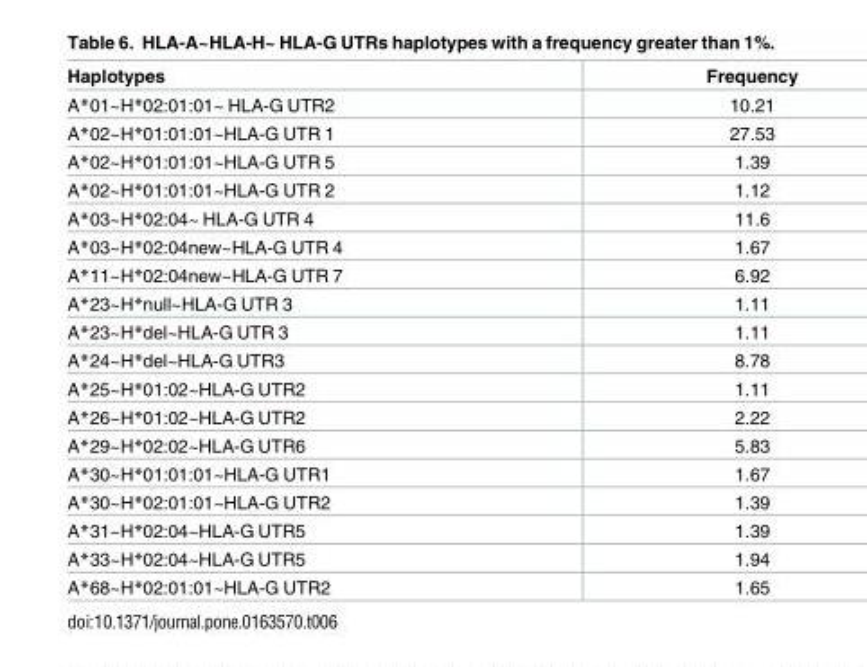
<table><thead><tr><td>Haplotypes</td><td>Frequency</td></tr></thead><tbody><tr><td>A*01~H*02:01:01~ HLA-G UTR2</td><td>10.21</td></tr><tr><td>A*02~H*01:01:01~HLA-G UTR 1</td><td>27.53</td></tr><tr><td>A*02~H*01:01:01~HLA-G UTR 5</td><td>1.39</td></tr><tr><td>A*02~H*01:01:01~HLA-G UTR 2</td><td>1.12</td></tr><tr><td>A*03~H*02:04~ HLA-G UTR 4</td><td>11.6</td></tr><tr><td>A*03~H*02:04new~HLA-G UTR 4</td><td>1.67</td></tr><tr><td>A*11~H*02:04new~HLA-G UTR 7</td><td>6.92</td></tr><tr><td>A*23~H*null~HLA-G UTR 3</td><td>1.11</td></tr><tr><td>A*23~H*del~HLA-G UTR 3</td><td>1.11</td></tr><tr><td>A*24~H*del~HLA-G UTR3</td><td>8.78</td></tr><tr><td>A*25~H*01:02~HLA-G UTR2</td><td>1.11</td></tr><tr><td>A*26~H*01:02~HLA-G UTR2</td><td>2.22</td></tr><tr><td>A*29~H*02:02~HLA-G UTR6</td><td>5.83</td></tr><tr><td>A*30~H*01:01:01~HLA-G UTR1</td><td>1.67</td></tr><tr><td>A*30~H*02:01:01~HLA-G UTR2</td><td>1.39</td></tr><tr><td>A*31~H*02:04~HLA-G UTR5</td><td>1.39</td></tr><tr><td>A*33~H*02:04~HLA-G UTR5</td><td>1.94</td></tr><tr><td>A*68~H*02:01:01~HLA-G UTR2</td><td>1.65</td></tr></tbody></table>